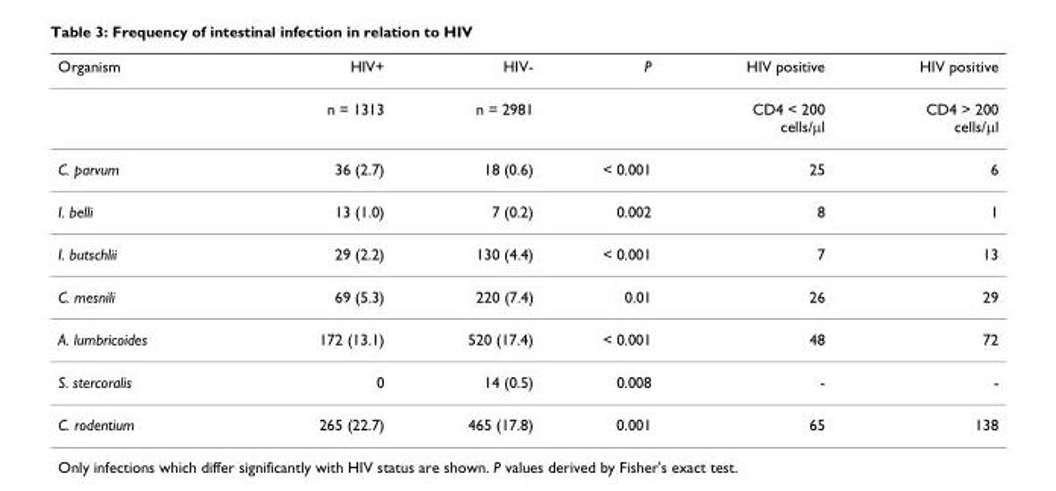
<table><thead><tr><td>Organism</td><td>HIV+</td><td>HIV-</td><td>P</td><td>HIV positive</td><td>HIV positive</td></tr></thead><tbody><tr><td></td><td>n = 1313</td><td>n = 2981</td><td></td><td>CD4 &lt; 200 cells/μl</td><td>CD4 &gt; 200 cells/μl</td></tr><tr><td>C. parvum</td><td>36 (2.7)</td><td>18 (0.6)</td><td>&lt; 0.001</td><td>25</td><td>6</td></tr><tr><td>I. belli</td><td>13 (1.0)</td><td>7 (0.2)</td><td>0.002</td><td>8</td><td>1</td></tr><tr><td>I. butschlii</td><td>29 (2.2)</td><td>130 (4.4)</td><td>&lt; 0.001</td><td>7</td><td>13</td></tr><tr><td>C. mesnili</td><td>69 (5.3)</td><td>220 (7.4)</td><td>0.01</td><td>26</td><td>29</td></tr><tr><td>A. lumbricoides</td><td>172 (13.1)</td><td>520 (17.4)</td><td>&lt; 0.001</td><td>48</td><td>72</td></tr><tr><td>S. stercoralis</td><td>0</td><td>14 (0.5)</td><td>0.008</td><td>-</td><td>-</td></tr><tr><td>C. rodentium</td><td>265 (22.7)</td><td>465 (17.8)</td><td>0.001</td><td>65</td><td>138</td></tr></tbody></table>